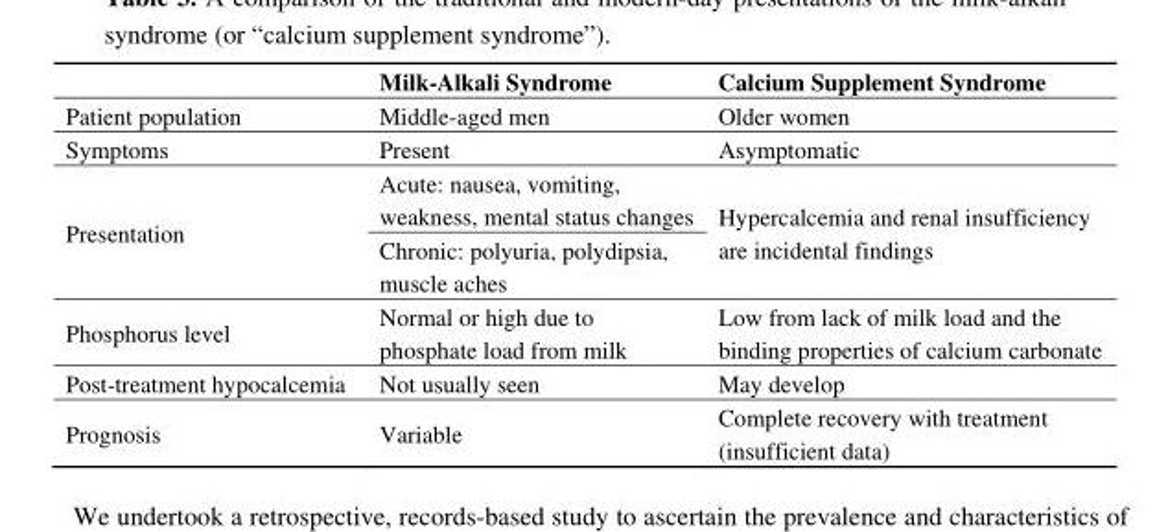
<table><thead><tr><td></td><td>Milk-Alkali Syndrome</td><td>Calcium Supplement Syndrome</td></tr></thead><tbody><tr><td>Patient population</td><td>Middle-aged men</td><td>Older women</td></tr><tr><td>Symptoms</td><td>Present</td><td>Asymptomatic</td></tr><tr><td rowspan="2">Presentation</td><td>Acute: nausea, vomiting, weakness, mental status changes</td><td rowspan="2">Hypercalcemia and renal insufficiency are incidental findings</td></tr><tr><td>Chronic: polyuria, polydipsia, muscle aches</td></tr><tr><td>Phosphorus level</td><td>Normal or high due to phosphate load from milk</td><td>Low from lack of milk load and the binding properties of calcium carbonate</td></tr><tr><td>Post-treatment hypocalcemia</td><td>Not usually seen</td><td>May develop</td></tr><tr><td>Prognosis</td><td>Variable</td><td>Complete recovery with treatment (insufficient data)</td></tr></tbody></table>